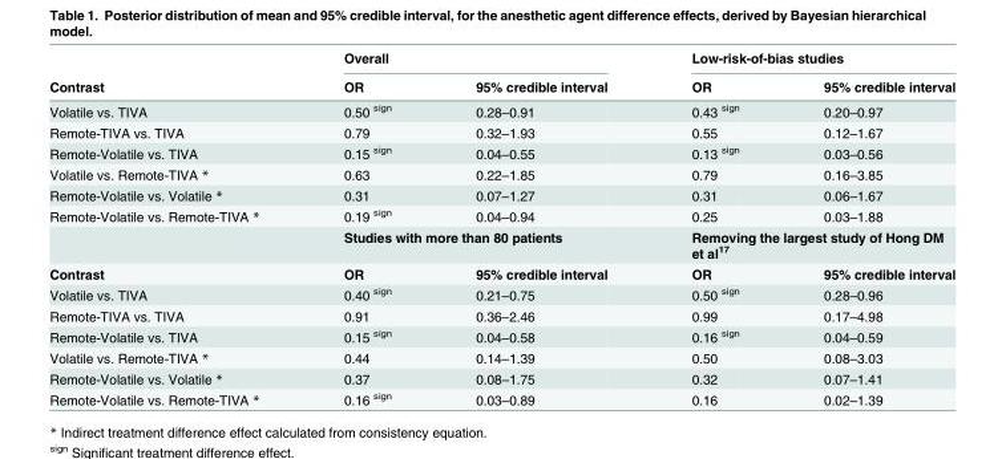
<table><thead><tr><td rowspan="2">Contrast</td><td colspan="2">Overall</td><td colspan="2">Low-risk-of-bias studies</td></tr><tr><td>OR</td><td>95% credible interval</td><td>OR</td><td>95% credible interval</td></tr></thead><tbody><tr><td>Volatile vs. TIVA</td><td>0.50 <sup>sign</sup></td><td>0.28–0.91</td><td>0.43 <sup>sign</sup></td><td>0.20–0.97</td></tr><tr><td>Remote-TIVA vs. TIVA</td><td>0.79</td><td>0.32–1.93</td><td>0.55</td><td>0.12–1.67</td></tr><tr><td>Remote-Volatile vs. TIVA</td><td>0.15 <sup>sign</sup></td><td>0.04–0.55</td><td>0.13 <sup>sign</sup></td><td>0.03–0.56</td></tr><tr><td>Volatile vs. Remote-TIVA *</td><td>0.63</td><td>0.22–1.85</td><td>0.79</td><td>0.16–3.85</td></tr><tr><td>Remote-Volatile vs. Volatile *</td><td>0.31</td><td>0.07–1.27</td><td>0.31</td><td>0.06–1.67</td></tr><tr><td rowspan="2">Remote-Volatile vs. Remote-TIVA *</td><td>0.19 <sup>sign</sup></td><td>0.04–0.94</td><td>0.25</td><td>0.03–1.88</td></tr><tr><td colspan="2">Studies with more than 80 patients</td><td colspan="2">Removing the largest study of Hong DM et al<sup>17</sup></td></tr><tr><td>Contrast</td><td>OR</td><td>95% credible interval</td><td>OR</td><td>95% credible interval</td></tr><tr><td>Volatile vs. TIVA</td><td>0.40 <sup>sign</sup></td><td>0.21–0.75</td><td>0.50 <sup>sign</sup></td><td>0.28–0.96</td></tr><tr><td>Remote-TIVA vs. TIVA</td><td>0.91</td><td>0.36–2.46</td><td>0.99</td><td>0.17–4.98</td></tr><tr><td>Remote-Volatile vs. TIVA</td><td>0.15 <sup>sign</sup></td><td>0.04–0.58</td><td>0.16 <sup>sign</sup></td><td>0.04–0.59</td></tr><tr><td>Volatile vs. Remote-TIVA *</td><td>0.44</td><td>0.14–1.39</td><td>0.50</td><td>0.08–3.03</td></tr><tr><td>Remote-Volatile vs. Volatile *</td><td>0.37</td><td>0.08–1.75</td><td>0.32</td><td>0.07–1.41</td></tr><tr><td>Remote-Volatile vs. Remote-TIVA *</td><td>0.16 <sup>sign</sup></td><td>0.03–0.89</td><td>0.16</td><td>0.02–1.39</td></tr></tbody></table>